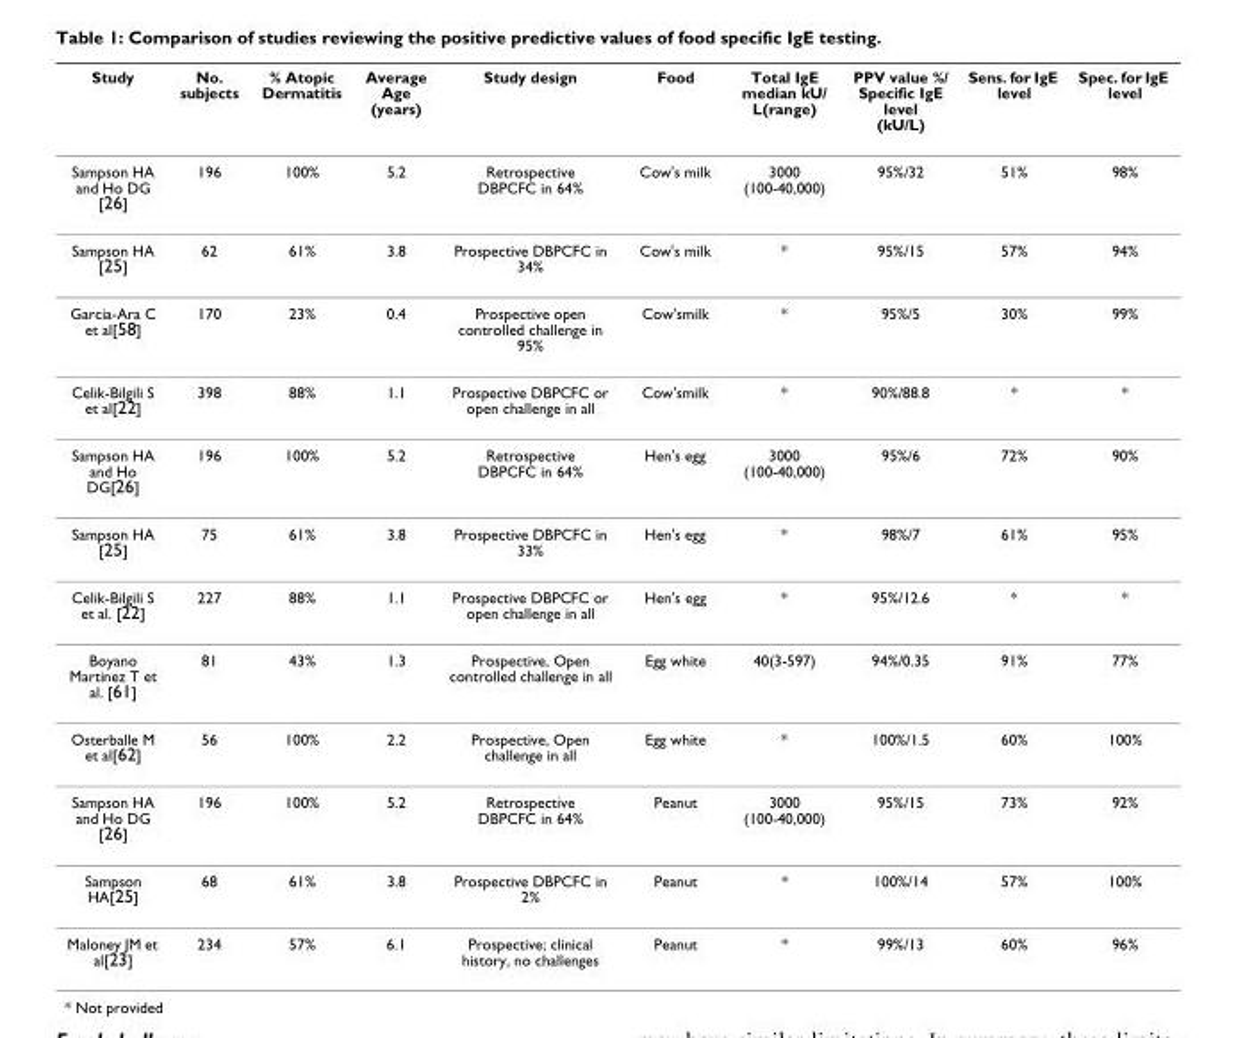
<table><thead><tr><td>Study</td><td>No. subjects</td><td>% Atopic Dermatitis</td><td>Average Age (years)</td><td>Study design</td><td>Food</td><td>Total IgE median kU/ L(range)</td><td>PPV value %/ Specific IgE level (kU/L)</td><td>Sens. for IgE level</td><td>Spec. for IgE level</td></tr></thead><tbody><tr><td>Sampson HA and Ho DG [26]</td><td>196</td><td>100%</td><td>5.2</td><td>Retrospective DBPCFC in 64%</td><td>Cow&#x27;s milk</td><td>3000 (100-40,000)</td><td>95%/32</td><td>51%</td><td>98%</td></tr><tr><td>Sampson HA [25]</td><td>62</td><td>61%</td><td>3.8</td><td>Prospective DBPCFC in 34%</td><td>Cow&#x27;s milk</td><td>*</td><td>95%/15</td><td>57%</td><td>94%</td></tr><tr><td>Garcia-Ara C et al[58]</td><td>170</td><td>23%</td><td>0.4</td><td>Prospective open controlled challenge in 95%</td><td>Cow&#x27;smilk</td><td>*</td><td>95%/5</td><td>30%</td><td>99%</td></tr><tr><td>Celik-Bilgili S et al[22]</td><td>398</td><td>88%</td><td>1.1</td><td>Prospective DBPCFC or open challenge in all</td><td>Cow&#x27;smilk</td><td>*</td><td>90%/88.8</td><td>*</td><td>*</td></tr><tr><td>Sampson HA and Ho DG[26]</td><td>196</td><td>100%</td><td>5.2</td><td>Retrospective DBPCFC in 64%</td><td>Hen&#x27;s egg</td><td>3000 (100-40,000)</td><td>95%/6</td><td>72%</td><td>90%</td></tr><tr><td>Sampson HA [25]</td><td>75</td><td>61%</td><td>3.8</td><td>Prospective DBPCFC in 33%</td><td>Hen&#x27;s egg</td><td>*</td><td>98%/7</td><td>61%</td><td>95%</td></tr><tr><td>Celik-Bilgili S et al. [22]</td><td>227</td><td>88%</td><td>1.1</td><td>Prospective DBPCFC or open challenge in all</td><td>Hen&#x27;s egg</td><td>*</td><td>95%/12.6</td><td>*</td><td>*</td></tr><tr><td>Boyano Martinez T et al. [61]</td><td>81</td><td>43%</td><td>1.3</td><td>Prospective, Open controlled challenge in all</td><td>Egg white</td><td>40(3-597)</td><td>94%/0.35</td><td>91%</td><td>77%</td></tr><tr><td>Osterballe M et al[62]</td><td>56</td><td>100%</td><td>2.2</td><td>Prospective, Open challenge in all</td><td>Egg white</td><td>*</td><td>100%/1.5</td><td>60%</td><td>100%</td></tr><tr><td>Sampson HA and Ho DG [26]</td><td>196</td><td>100%</td><td>5.2</td><td>Retrospective DBPCFC in 64%</td><td>Peanut</td><td>3000 (100-40,000)</td><td>95%/15</td><td>73%</td><td>92%</td></tr><tr><td>Sampson HA[25]</td><td>68</td><td>61%</td><td>3.8</td><td>Prospective DBPCFC in 2%</td><td>Peanut</td><td>*</td><td>100%/14</td><td>57%</td><td>100%</td></tr><tr><td>Maloney JM et al[23]</td><td>234</td><td>57%</td><td>6.1</td><td>Prospective; clinical history, no challenges</td><td>Peanut</td><td>*</td><td>99%/13</td><td>60%</td><td>96%</td></tr></tbody></table>